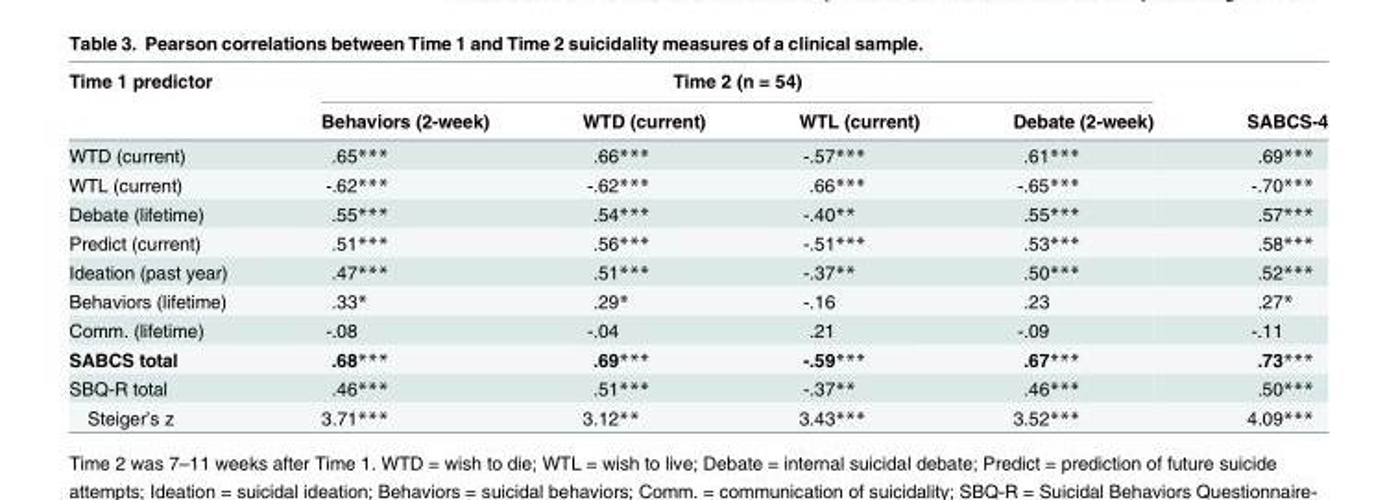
<table><thead><tr><td rowspan="2">Time 1 predictor</td><td colspan="4">Time 2 (n = 54)</td><td rowspan="2">SABCS-4</td></tr><tr><td>Behaviors (2-week)</td><td>WTD (current)</td><td>WTL (current)</td><td>Debate (2-week)</td></tr></thead><tbody><tr><td>WTD (current)</td><td>.65***</td><td>.66***</td><td>-.57***</td><td>.61***</td><td>.69***</td></tr><tr><td>WTL (current)</td><td>-.62***</td><td>-.62***</td><td>.66***</td><td>-.65***</td><td>-.70***</td></tr><tr><td>Debate (lifetime)</td><td>.55***</td><td>.54***</td><td>-.40**</td><td>.55***</td><td>.57***</td></tr><tr><td>Predict (current)</td><td>.51***</td><td>.56***</td><td>-.51***</td><td>.53***</td><td>.58***</td></tr><tr><td>Ideation (past year)</td><td>.47***</td><td>.51***</td><td>-.37**</td><td>.50***</td><td>.52***</td></tr><tr><td>Behaviors (lifetime)</td><td>.33*</td><td>.29*</td><td>-.16</td><td>.23</td><td>.27*</td></tr><tr><td>Comm. (lifetime)</td><td>-.08</td><td>-.04</td><td>.21</td><td>-.09</td><td>-.11</td></tr><tr><td>SABCS total</td><td>.68***</td><td>.69***</td><td>-.59***</td><td>.67***</td><td>.73***</td></tr><tr><td>SBQ-R total</td><td>.46***</td><td>.51***</td><td>-.37**</td><td>.46***</td><td>.50***</td></tr><tr><td>Steiger’s z</td><td>3.71***</td><td>3.12**</td><td>3.43***</td><td>3.52***</td><td>4.09***</td></tr></tbody></table>